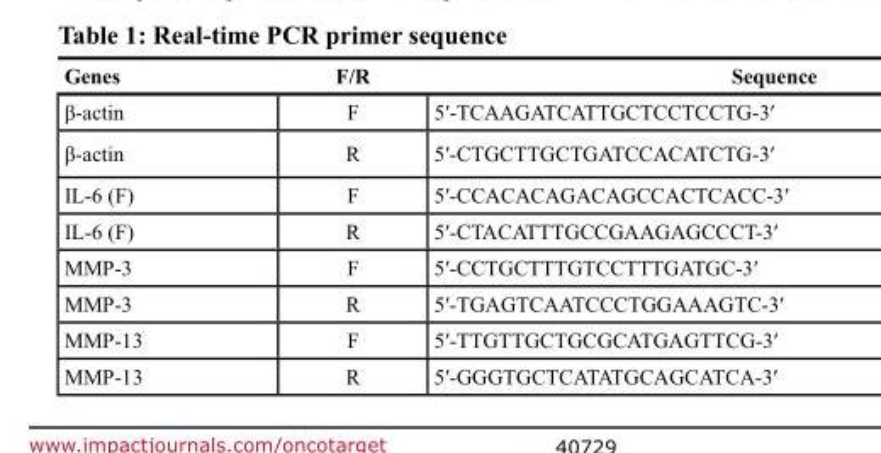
<table><thead><tr><td>Genes</td><td>F/R</td><td>Sequence</td></tr></thead><tbody><tr><td>β-actin</td><td>F</td><td>5′-TCAAGATCATTGCTCCTCCTG-3′</td></tr><tr><td>β-actin</td><td>R</td><td>5′-CTGCTTGCTGATCCACATCTG-3′</td></tr><tr><td>IL-6 (F)</td><td>F</td><td>5′-CCACACAGACAGCCACTCACC-3′</td></tr><tr><td>IL-6 (F)</td><td>R</td><td>5′-CTACATTTGCCGAAGAGCCCT-3′</td></tr><tr><td>MMP-3</td><td>F</td><td>5′-CCTGCTTTGTCCTTTGATGC-3′</td></tr><tr><td>MMP-3</td><td>R</td><td>5′-TGAGTCAATCCCTGGAAAGTC-3′</td></tr><tr><td>MMP-13</td><td>F</td><td>5′-TTGTTGCTGCGCATGAGTTCG-3′</td></tr><tr><td>MMP-13</td><td>R</td><td>5′-GGGTGCTCATATGCAGCATCA-3′</td></tr></tbody></table>